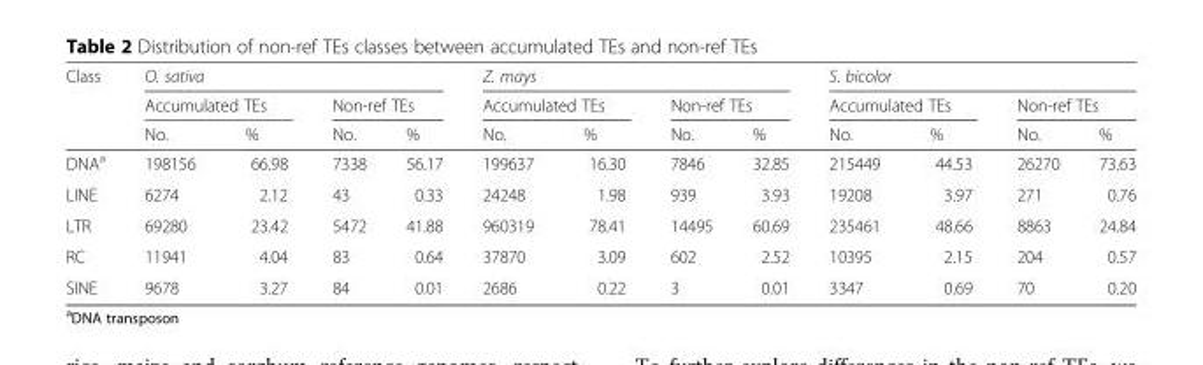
<table><thead><tr><td rowspan="3">Class</td><td colspan="4">O. sativa</td><td colspan="4">Z. mays</td><td colspan="4">S. bicolor</td></tr><tr><td colspan="2">Accumulated TEs</td><td colspan="2">Non-ref TEs</td><td colspan="2">Accumulated TEs</td><td colspan="2">Non-ref TEs</td><td colspan="2">Accumulated TEs</td><td colspan="2">Non-ref TEs</td></tr><tr><td>No.</td><td>%</td><td>No.</td><td>%</td><td>No.</td><td>%</td><td>No.</td><td>%</td><td>No.</td><td>%</td><td>No.</td><td>%</td></tr></thead><tbody><tr><td>DNA<sup>a</sup></td><td>198156</td><td>66.98</td><td>7338</td><td>56.17</td><td>199637</td><td>16.30</td><td>7846</td><td>32.85</td><td>215449</td><td>44.53</td><td>26270</td><td>73.63</td></tr><tr><td>LINE</td><td>6274</td><td>2.12</td><td>43</td><td>0.33</td><td>24248</td><td>1.98</td><td>939</td><td>3.93</td><td>19208</td><td>3.97</td><td>271</td><td>0.76</td></tr><tr><td>LTR</td><td>69280</td><td>23.42</td><td>5472</td><td>41.88</td><td>960319</td><td>78.41</td><td>14495</td><td>60.69</td><td>235461</td><td>48.66</td><td>8863</td><td>24.84</td></tr><tr><td>RC</td><td>11941</td><td>4.04</td><td>83</td><td>0.64</td><td>37870</td><td>3.09</td><td>602</td><td>2.52</td><td>10395</td><td>2.15</td><td>204</td><td>0.57</td></tr><tr><td>SINE</td><td>9678</td><td>3.27</td><td>84</td><td>0.01</td><td>2686</td><td>0.22</td><td>3</td><td>0.01</td><td>3347</td><td>0.69</td><td>70</td><td>0.20</td></tr></tbody></table>